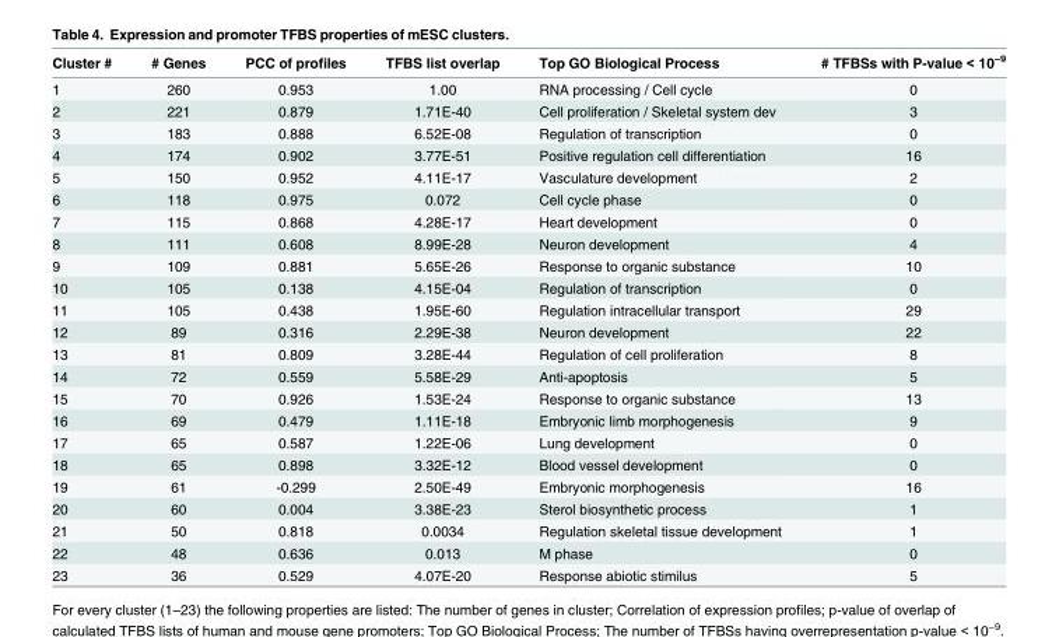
<table><thead><tr><td>Cluster #</td><td># Genes</td><td>PCC of profiles</td><td>TFBS list overlap</td><td>Top GO Biological Process</td><td># TFBSs with P-value &lt; 10<sup>−9</sup></td></tr></thead><tbody><tr><td>1</td><td>260</td><td>0.953</td><td>1.00</td><td>RNA processing / Cell cycle</td><td>0</td></tr><tr><td>2</td><td>221</td><td>0.879</td><td>1.71E-40</td><td>Cell proliferation / Skeletal system dev</td><td>3</td></tr><tr><td>3</td><td>183</td><td>0.888</td><td>6.52E-08</td><td>Regulation of transcription</td><td>0</td></tr><tr><td>4</td><td>174</td><td>0.902</td><td>3.77E-51</td><td>Positive regulation cell differentiation</td><td>16</td></tr><tr><td>5</td><td>150</td><td>0.952</td><td>4.11E-17</td><td>Vasculature development</td><td>2</td></tr><tr><td>6</td><td>118</td><td>0.975</td><td>0.072</td><td>Cell cycle phase</td><td>0</td></tr><tr><td>7</td><td>115</td><td>0.868</td><td>4.28E-17</td><td>Heart development</td><td>0</td></tr><tr><td>8</td><td>111</td><td>0.608</td><td>8.99E-28</td><td>Neuron development</td><td>4</td></tr><tr><td>9</td><td>109</td><td>0.881</td><td>5.65E-26</td><td>Response to organic substance</td><td>10</td></tr><tr><td>10</td><td>105</td><td>0.138</td><td>4.15E-04</td><td>Regulation of transcription</td><td>0</td></tr><tr><td>11</td><td>105</td><td>0.438</td><td>1.95E-60</td><td>Regulation intracellular transport</td><td>29</td></tr><tr><td>12</td><td>89</td><td>0.316</td><td>2.29E-38</td><td>Neuron development</td><td>22</td></tr><tr><td>13</td><td>81</td><td>0.809</td><td>3.28E-44</td><td>Regulation of cell proliferation</td><td>8</td></tr><tr><td>14</td><td>72</td><td>0.559</td><td>5.58E-29</td><td>Anti-apoptosis</td><td>5</td></tr><tr><td>15</td><td>70</td><td>0.926</td><td>1.53E-24</td><td>Response to organic substance</td><td>13</td></tr><tr><td>16</td><td>69</td><td>0.479</td><td>1.11E-18</td><td>Embryonic limb morphogenesis</td><td>9</td></tr><tr><td>17</td><td>65</td><td>0.587</td><td>1.22E-06</td><td>Lung development</td><td>0</td></tr><tr><td>18</td><td>65</td><td>0.898</td><td>3.32E-12</td><td>Blood vessel development</td><td>0</td></tr><tr><td>19</td><td>61</td><td>-0.299</td><td>2.50E-49</td><td>Embryonic morphogenesis</td><td>16</td></tr><tr><td>20</td><td>60</td><td>0.004</td><td>3.38E-23</td><td>Sterol biosynthetic process</td><td>1</td></tr><tr><td>21</td><td>50</td><td>0.818</td><td>0.0034</td><td>Regulation skeletal tissue development</td><td>1</td></tr><tr><td>22</td><td>48</td><td>0.636</td><td>0.013</td><td>M phase</td><td>0</td></tr><tr><td>23</td><td>36</td><td>0.529</td><td>4.07E-20</td><td>Response abiotic stimilus</td><td>5</td></tr></tbody></table>